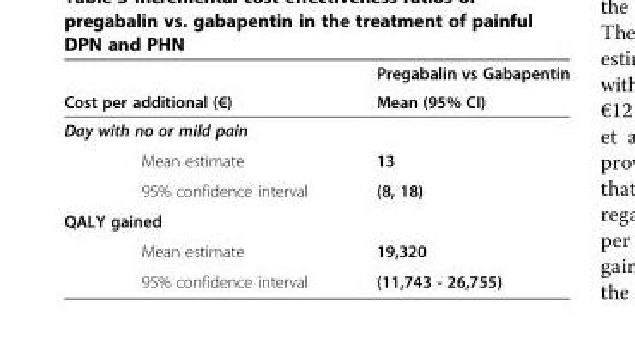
<table><thead><tr><td rowspan="2">Cost per additional (€)</td><td rowspan="2">Pregabalin vs Gabapentin Mean (95% CI)</td></tr><tr></tr></thead><tbody><tr><td colspan="2">Day with no or mild pain</td></tr><tr><td>Mean estimate</td><td>13</td></tr><tr><td>95% confidence interval</td><td>(8, 18)</td></tr><tr><td colspan="2">QALY gained</td></tr><tr><td>Mean estimate</td><td>19,320</td></tr><tr><td>95% confidence interval</td><td>(11,743 - 26,755)</td></tr></tbody></table>